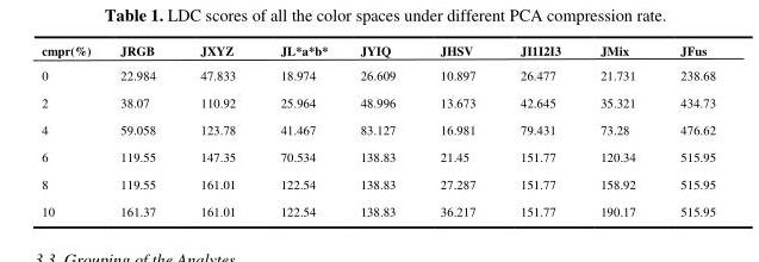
<table><thead><tr><td>cmpr(%)</td><td>JRGB</td><td>JXYZ</td><td>JL*a*b*</td><td>JYIQ</td><td>JHSV</td><td>JI1I2I3</td><td>JMix</td><td>JFus</td></tr></thead><tbody><tr><td>0</td><td>22.984</td><td>47.833</td><td>18.974</td><td>26.609</td><td>10.897</td><td>26.477</td><td>21.731</td><td>238.68</td></tr><tr><td>2</td><td>38.07</td><td>110.92</td><td>25.964</td><td>48.996</td><td>13.673</td><td>42.645</td><td>35.321</td><td>434.73</td></tr><tr><td>4</td><td>59.058</td><td>123.78</td><td>41.467</td><td>83.127</td><td>16.981</td><td>79.431</td><td>73.28</td><td>476.62</td></tr><tr><td>6</td><td>119.55</td><td>147.35</td><td>70.534</td><td>138.83</td><td>21.45</td><td>151.77</td><td>120.34</td><td>515.95</td></tr><tr><td>8</td><td>119.55</td><td>161.01</td><td>122.54</td><td>138.83</td><td>27.287</td><td>151.77</td><td>158.92</td><td>515.95</td></tr><tr><td>10</td><td>161.37</td><td>161.01</td><td>122.54</td><td>138.83</td><td>36.217</td><td>151.77</td><td>190.17</td><td>515.95</td></tr></tbody></table>